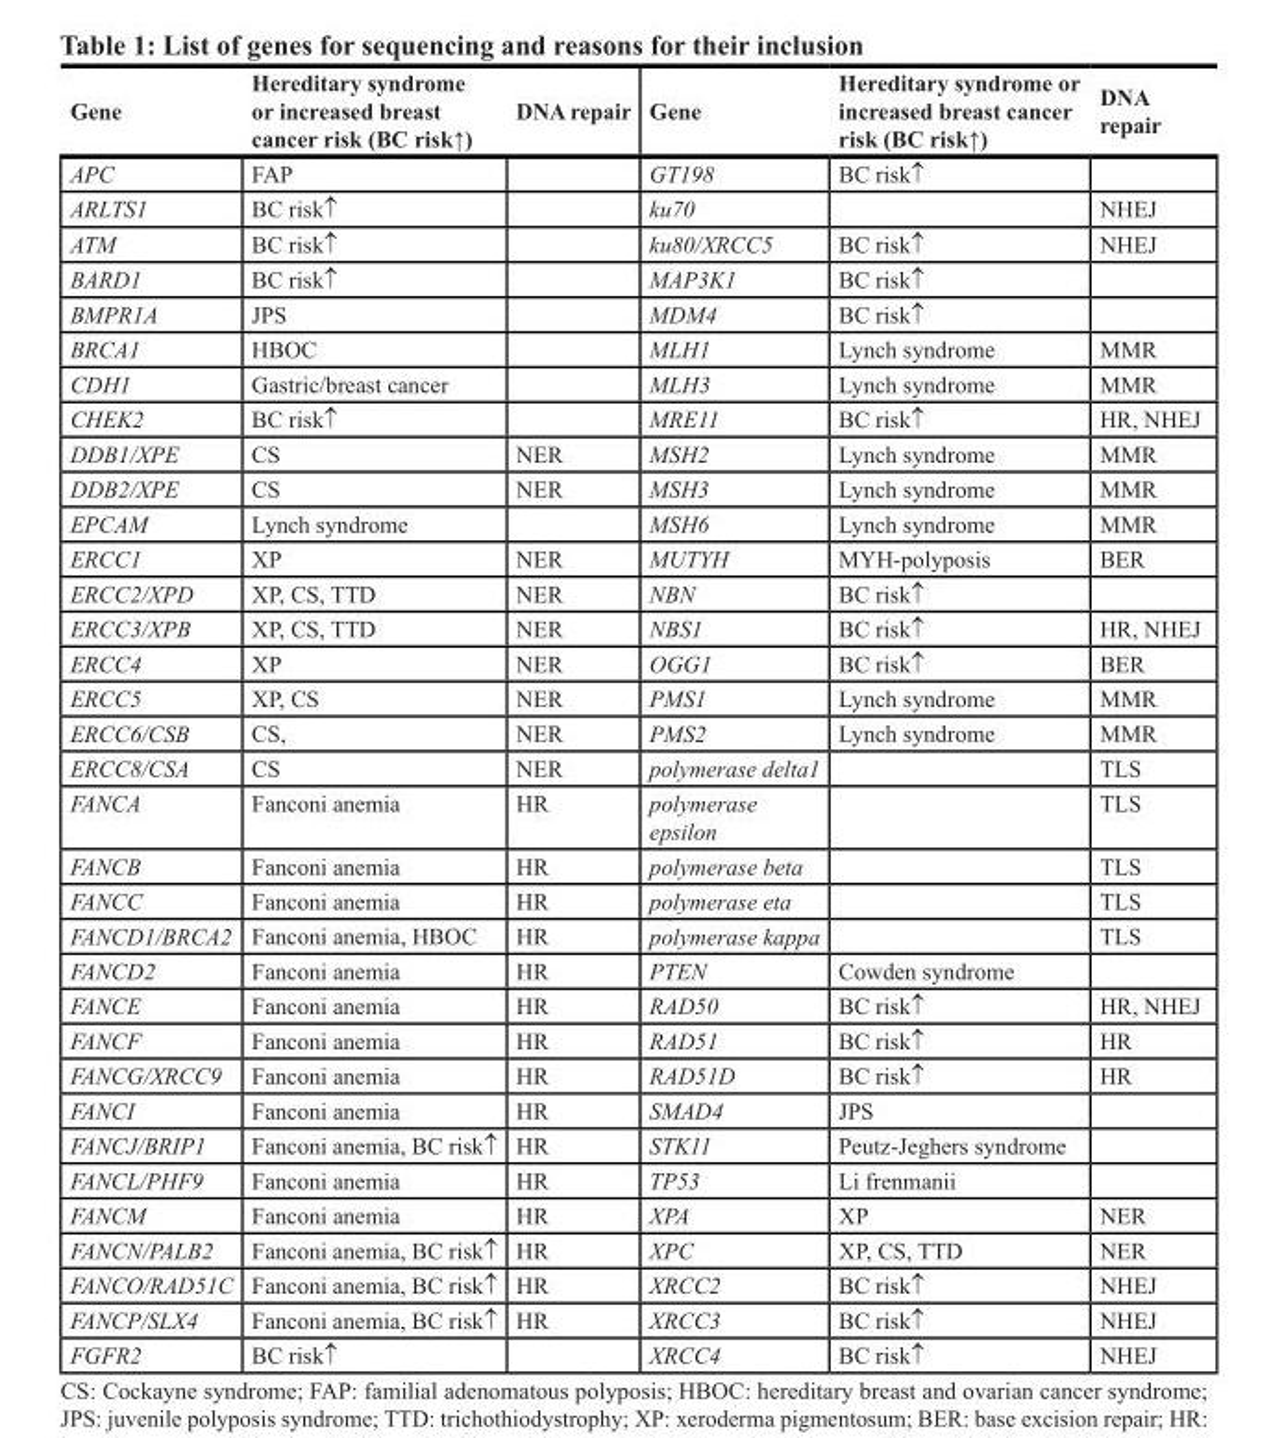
<table><thead><tr><td>Gene</td><td>Hereditary syndrome or increased breast cancer risk (BC risk↑)</td><td>DNA repair</td><td>Gene</td><td>Hereditary syndrome or increased breast cancer risk (BC risk↑)</td><td>DNA repair</td></tr></thead><tbody><tr><td>APC</td><td>FAP</td><td></td><td>GT198</td><td>BC risk↑</td><td></td></tr><tr><td>ARLTS1</td><td>BC risk↑</td><td></td><td>ku70</td><td></td><td>NHEJ</td></tr><tr><td>ATM</td><td>BC risk↑</td><td></td><td>ku80/XRCC5</td><td>BC risk↑</td><td>NHEJ</td></tr><tr><td>BARD1</td><td>BC risk↑</td><td></td><td>MAP3K1</td><td>BC risk↑</td><td></td></tr><tr><td>BMPR1A</td><td>JPS</td><td></td><td>MDM4</td><td>BC risk↑</td><td></td></tr><tr><td>BRCA1</td><td>HBOC</td><td></td><td>MLH1</td><td>Lynch syndrome</td><td>MMR</td></tr><tr><td>CDH1</td><td>Gastric/breast cancer</td><td></td><td>MLH3</td><td>Lynch syndrome</td><td>MMR</td></tr><tr><td>CHEK2</td><td>BC risk↑</td><td></td><td>MRE11</td><td>BC risk↑</td><td>HR, NHEJ</td></tr><tr><td>DDB1/XPE</td><td>CS</td><td>NER</td><td>MSH2</td><td>Lynch syndrome</td><td>MMR</td></tr><tr><td>DDB2/XPE</td><td>CS</td><td>NER</td><td>MSH3</td><td>Lynch syndrome</td><td>MMR</td></tr><tr><td>EPCAM</td><td>Lynch syndrome</td><td></td><td>MSH6</td><td>Lynch syndrome</td><td>MMR</td></tr><tr><td>ERCC1</td><td>XP</td><td>NER</td><td>MUTYH</td><td>MYH-polyposis</td><td>BER</td></tr><tr><td>ERCC2/XPD</td><td>XP, CS, TTD</td><td>NER</td><td>NBN</td><td>BC risk↑</td><td></td></tr><tr><td>ERCC3/XPB</td><td>XP, CS, TTD</td><td>NER</td><td>NBS1</td><td>BC risk↑</td><td>HR, NHEJ</td></tr><tr><td>ERCC4</td><td>XP</td><td>NER</td><td>OGG1</td><td>BC risk↑</td><td>BER</td></tr><tr><td>ERCC5</td><td>XP, CS</td><td>NER</td><td>PMS1</td><td>Lynch syndrome</td><td>MMR</td></tr><tr><td>ERCC6/CSB</td><td>CS,</td><td>NER</td><td>PMS2</td><td>Lynch syndrome</td><td>MMR</td></tr><tr><td>ERCC8/CSA</td><td>CS</td><td>NER</td><td>polymerase delta1</td><td></td><td>TLS</td></tr><tr><td>FANCA</td><td>Fanconi anemia</td><td>HR</td><td>polymerase epsilon</td><td></td><td>TLS</td></tr><tr><td>FANCB</td><td>Fanconi anemia</td><td>HR</td><td>polymerase beta</td><td></td><td>TLS</td></tr><tr><td>FANCC</td><td>Fanconi anemia</td><td>HR</td><td>polymerase eta</td><td></td><td>TLS</td></tr><tr><td>FANCD1/BRCA2</td><td>Fanconi anemia, HBOC</td><td>HR</td><td>polymerase kappa</td><td></td><td>TLS</td></tr><tr><td>FANCD2</td><td>Fanconi anemia</td><td>HR</td><td>PTEN</td><td>Cowden syndrome</td><td></td></tr><tr><td>FANCE</td><td>Fanconi anemia</td><td>HR</td><td>RAD50</td><td>BC risk↑</td><td>HR, NHEJ</td></tr><tr><td>FANCF</td><td>Fanconi anemia</td><td>HR</td><td>RAD51</td><td>BC risk↑</td><td>HR</td></tr><tr><td>FANCG/XRCC9</td><td>Fanconi anemia</td><td>HR</td><td>RAD51D</td><td>BC risk↑</td><td>HR</td></tr><tr><td>FANCI</td><td>Fanconi anemia</td><td>HR</td><td>SMAD4</td><td>JPS</td><td></td></tr><tr><td>FANCJ/BRIP1</td><td>Fanconi anemia, BC risk↑</td><td>HR</td><td>STK11</td><td>Peutz-Jeghers syndrome</td><td></td></tr><tr><td>FANCL/PHF9</td><td>Fanconi anemia</td><td>HR</td><td>TP53</td><td>Li frenmanii</td><td></td></tr><tr><td>FANCM</td><td>Fanconi anemia</td><td>HR</td><td>XPA</td><td>XP</td><td>NER</td></tr><tr><td>FANCN/PALB2</td><td>Fanconi anemia, BC risk↑</td><td>HR</td><td>XPC</td><td>XP, CS, TTD</td><td>NER</td></tr><tr><td>FANCO/RAD51C</td><td>Fanconi anemia, BC risk↑</td><td>HR</td><td>XRCC2</td><td>BC risk↑</td><td>NHEJ</td></tr><tr><td>FANCP/SLX4</td><td>Fanconi anemia, BC risk↑</td><td>HR</td><td>XRCC3</td><td>BC risk↑</td><td>NHEJ</td></tr><tr><td>FGFR2</td><td>BC risk↑</td><td></td><td>XRCC4</td><td>BC risk↑</td><td>NHEJ</td></tr></tbody></table>